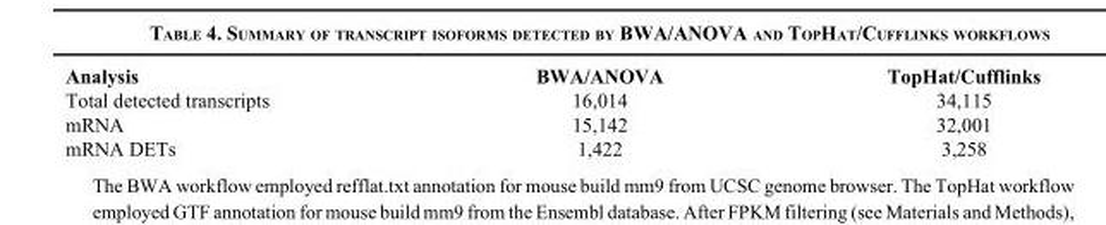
<table><thead><tr><td>Analysis</td><td>BWA/ANOVA</td><td>TopHat/Cufflinks</td></tr></thead><tbody><tr><td>Total detected transcripts</td><td>16,014</td><td>34,115</td></tr><tr><td>mRNA</td><td>15,142</td><td>32,001</td></tr><tr><td>mRNA DETs</td><td>1,422</td><td>3,258</td></tr></tbody></table>